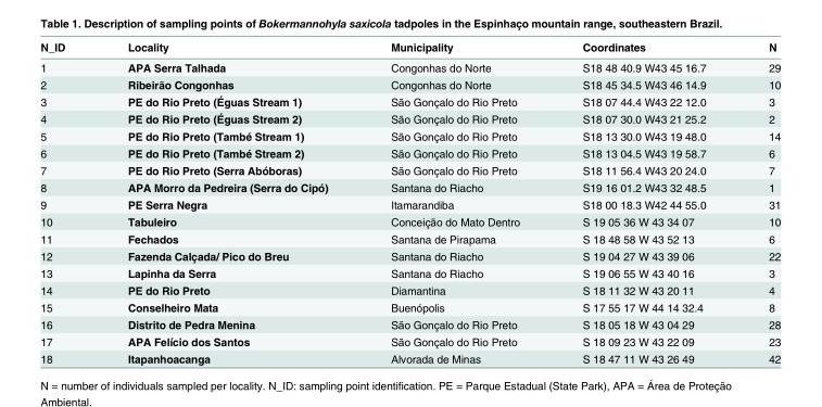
<table><thead><tr><td>N_ID</td><td>Locality</td><td>Municipality</td><td>Coordinates</td><td>N</td></tr></thead><tbody><tr><td>1</td><td>APA Serra Talhada</td><td>Congonhas do Norte</td><td>S18 48 40.9 W43 45 16.7</td><td>29</td></tr><tr><td>2</td><td>Ribeirão Congonhas</td><td>Congonhas do Norte</td><td>S18 45 34.5 W43 46 14.9</td><td>10</td></tr><tr><td>3</td><td>PE do Rio Preto (Éguas Stream 1)</td><td>São Gonçalo do Rio Preto</td><td>S18 07 44.4 W43 22 12.0</td><td>3</td></tr><tr><td>4</td><td>PE do Rio Preto (Éguas Stream 2)</td><td>São Gonçalo do Rio Preto</td><td>S18 07 30.0 W43 21 25.2</td><td>2</td></tr><tr><td>5</td><td>PE do Rio Preto (També Stream 1)</td><td>São Gonçalo do Rio Preto</td><td>S18 13 30.0 W43 19 48.0</td><td>14</td></tr><tr><td>6</td><td>PE do Rio Preto (També Stream 2)</td><td>São Gonçalo do Rio Preto</td><td>S18 13 04.5 W43 19 58.7</td><td>6</td></tr><tr><td>7</td><td>PE do Rio Preto (Serra Abóboras)</td><td>São Gonçalo do Rio Preto</td><td>S18 11 56.4 W43 20 24.0</td><td>7</td></tr><tr><td>8</td><td>APA Morro da Pedreira (Serra do Cipó)</td><td>Santana do Riacho</td><td>S19 16 01.2 W43 32 48.5</td><td>1</td></tr><tr><td>9</td><td>PE Serra Negra</td><td>Itamarandiba</td><td>S18 00 18.3 W42 44 55.0</td><td>31</td></tr><tr><td>10</td><td>Tabuleiro</td><td>Conceição do Mato Dentro</td><td>S 19 05 36 W 43 34 07</td><td>10</td></tr><tr><td>11</td><td>Fechados</td><td>Santana de Pirapama</td><td>S 18 48 58 W 43 52 13</td><td>6</td></tr><tr><td>12</td><td>Fazenda Calçada/ Pico do Breu</td><td>Santana do Riacho</td><td>S 19 04 27 W 43 39 06</td><td>22</td></tr><tr><td>13</td><td>Lapinha da Serra</td><td>Santana do Riacho</td><td>S 19 06 55 W 43 40 16</td><td>3</td></tr><tr><td>14</td><td>PE do Rio Preto</td><td>Diamantina</td><td>S 18 11 32 W 43 20 11</td><td>4</td></tr><tr><td>15</td><td>Conselheiro Mata</td><td>Buenópolis</td><td>S 17 55 17 W 44 14 32.4</td><td>8</td></tr><tr><td>16</td><td>Distrito de Pedra Menina</td><td>São Gonçalo do Rio Preto</td><td>S 18 05 18 W 43 04 29</td><td>28</td></tr><tr><td>17</td><td>APA Felício dos Santos</td><td>São Gonçalo do Rio Preto</td><td>S 18 09 23 W 43 22 09</td><td>23</td></tr><tr><td>18</td><td>Itapanhoacanga</td><td>Alvorada de Minas</td><td>S 18 47 11 W 43 26 49</td><td>42</td></tr></tbody></table>